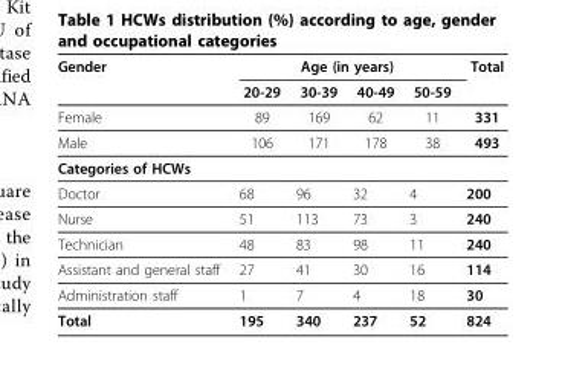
<table><thead><tr><td rowspan="2">Gender</td><td colspan="4">Age (in years)</td><td rowspan="2">Total</td></tr><tr><td>20-29</td><td>30-39</td><td>40-49</td><td>50-59</td></tr></thead><tbody><tr><td>Female</td><td>89</td><td>169</td><td>62</td><td>11</td><td>331</td></tr><tr><td>Male</td><td>106</td><td>171</td><td>178</td><td>38</td><td>493</td></tr><tr><td colspan="6">Categories of HCWs</td></tr><tr><td>Doctor</td><td>68</td><td>96</td><td>32</td><td>4</td><td>200</td></tr><tr><td>Nurse</td><td>51</td><td>113</td><td>73</td><td>3</td><td>240</td></tr><tr><td>Technician</td><td>48</td><td>83</td><td>98</td><td>11</td><td>240</td></tr><tr><td>Assistant and general staff</td><td>27</td><td>41</td><td>30</td><td>16</td><td>114</td></tr><tr><td>Administration staff</td><td>1</td><td>7</td><td>4</td><td>18</td><td>30</td></tr><tr><td>Total</td><td>195</td><td>340</td><td>237</td><td>52</td><td>824</td></tr></tbody></table>